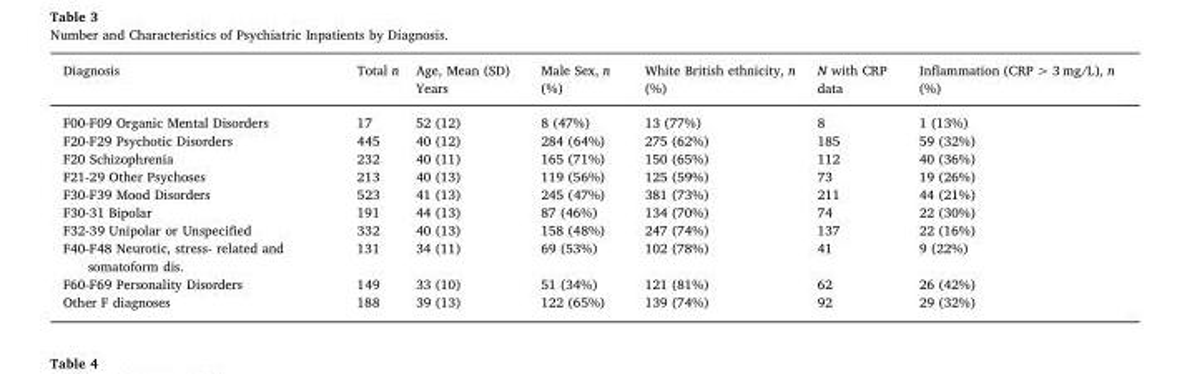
<table><thead><tr><td>Diagnosis</td><td>Total n</td><td>Age, Mean (SD) Years</td><td>Male Sex, n (%)</td><td>White British ethnicity, n (%)</td><td>N with CRP data</td><td>Inflammation (CRP &gt; 3 mg/L), n (%)</td></tr></thead><tbody><tr><td>F00-F09 Organic Mental Disorders</td><td>17</td><td>52 (12)</td><td>8 (47%)</td><td>13 (77%)</td><td>8</td><td>1 (13%)</td></tr><tr><td>F20-F29 Psychotic Disorders</td><td>445</td><td>40 (12)</td><td>284 (64%)</td><td>275 (62%)</td><td>185</td><td>59 (32%)</td></tr><tr><td>F20 Schizophrenia</td><td>232</td><td>40 (11)</td><td>165 (71%)</td><td>150 (65%)</td><td>112</td><td>40 (36%)</td></tr><tr><td>F21-29 Other Psychoses</td><td>213</td><td>40 (13)</td><td>119 (56%)</td><td>125 (59%)</td><td>73</td><td>19 (26%)</td></tr><tr><td>F30-F39 Mood Disorders</td><td>523</td><td>41 (13)</td><td>245 (47%)</td><td>381 (73%)</td><td>211</td><td>44 (21%)</td></tr><tr><td>F30-31 Bipolar</td><td>191</td><td>44 (13)</td><td>87 (46%)</td><td>134 (70%)</td><td>74</td><td>22 (30%)</td></tr><tr><td>F32-39 Unipolar or Unspecified</td><td>332</td><td>40 (13)</td><td>158 (48%)</td><td>247 (74%)</td><td>137</td><td>22 (16%)</td></tr><tr><td>F40-F48 Neurotic, stress- related and somatoform dis.</td><td>131</td><td>34 (11)</td><td>69 (53%)</td><td>102 (78%)</td><td>41</td><td>9 (22%)</td></tr><tr><td>F60-F69 Personality Disorders</td><td>149</td><td>33 (10)</td><td>51 (34%)</td><td>121 (81%)</td><td>62</td><td>26 (42%)</td></tr><tr><td>Other F diagnoses</td><td>188</td><td>39 (13)</td><td>122 (65%)</td><td>139 (74%)</td><td>92</td><td>29 (32%)</td></tr></tbody></table>